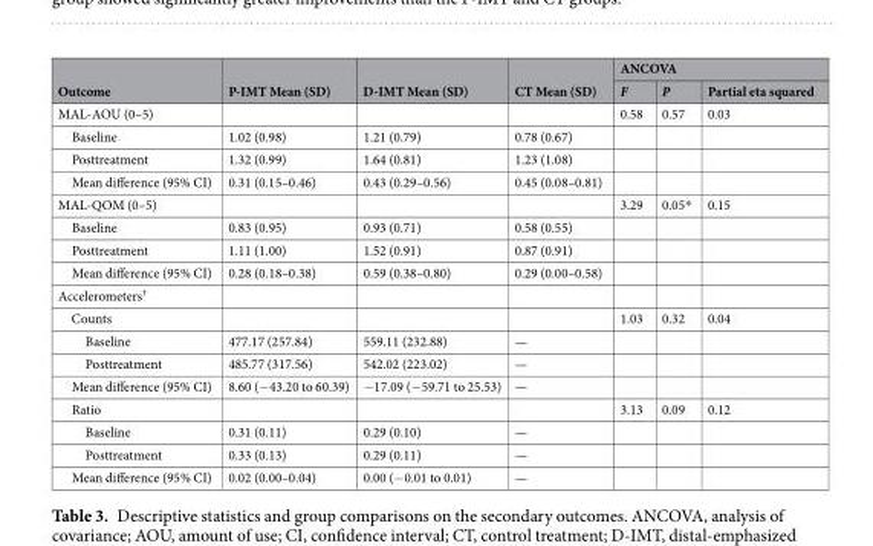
<table><thead><tr><td rowspan="2">Outcome</td><td rowspan="2">P-IMT Mean (SD)</td><td rowspan="2">D-IMT Mean (SD)</td><td rowspan="2">CT Mean (SD)</td><td colspan="3">ANCOVA</td></tr><tr><td>F</td><td>P</td><td>Partial eta squared</td></tr></thead><tbody><tr><td>MAL-AOU (0–5)</td><td></td><td></td><td></td><td>0.58</td><td>0.57</td><td>0.03</td></tr><tr><td>Baseline</td><td>1.02 (0.98)</td><td>1.21 (0.79)</td><td>0.78 (0.67)</td><td></td><td></td><td></td></tr><tr><td>Posttreatment</td><td>1.32 (0.99)</td><td>1.64 (0.81)</td><td>1.23 (1.08)</td><td></td><td></td><td></td></tr><tr><td>Mean difference (95% CI)</td><td>0.31 (0.15–0.46)</td><td>0.43 (0.29–0.56)</td><td>0.45 (0.08–0.81)</td><td></td><td></td><td></td></tr><tr><td>MAL-QOM (0–5)</td><td></td><td></td><td></td><td>3.29</td><td>0.05*</td><td>0.15</td></tr><tr><td>Baseline</td><td>0.83 (0.95)</td><td>0.93 (0.71)</td><td>0.58 (0.55)</td><td></td><td></td><td></td></tr><tr><td>Posttreatment</td><td>1.11 (1.00)</td><td>1.52 (0.91)</td><td>0.87 (0.91)</td><td></td><td></td><td></td></tr><tr><td>Mean difference (95% CI)</td><td>0.28 (0.18–0.38)</td><td>0.59 (0.38–0.80)</td><td>0.29 (0.00–0.58)</td><td></td><td></td><td></td></tr><tr><td colspan="7">Accelerometers<sup>†</sup></td></tr><tr><td>Counts</td><td></td><td></td><td></td><td>1.03</td><td>0.32</td><td>0.04</td></tr><tr><td>Baseline</td><td>477.17 (257.84)</td><td>559.11 (232.88)</td><td>—</td><td></td><td></td><td></td></tr><tr><td>Posttreatment</td><td>485.77 (317.56)</td><td>542.02 (223.02)</td><td>—</td><td></td><td></td><td></td></tr><tr><td>Mean difference (95% CI)</td><td>8.60 (−43.20 to 60.39)</td><td>−17.09 (−59.71 to 25.53)</td><td>—</td><td></td><td></td><td></td></tr><tr><td>Ratio</td><td></td><td></td><td></td><td>3.13</td><td>0.09</td><td>0.12</td></tr><tr><td>Baseline</td><td>0.31 (0.11)</td><td>0.29 (0.10)</td><td>—</td><td></td><td></td><td></td></tr><tr><td>Posttreatment</td><td>0.33 (0.13)</td><td>0.29 (0.11)</td><td>—</td><td></td><td></td><td></td></tr><tr><td>Mean difference (95% CI)</td><td>0.02 (0.00–0.04)</td><td>0.00 (−0.01 to 0.01)</td><td>—</td><td></td><td></td><td></td></tr></tbody></table>